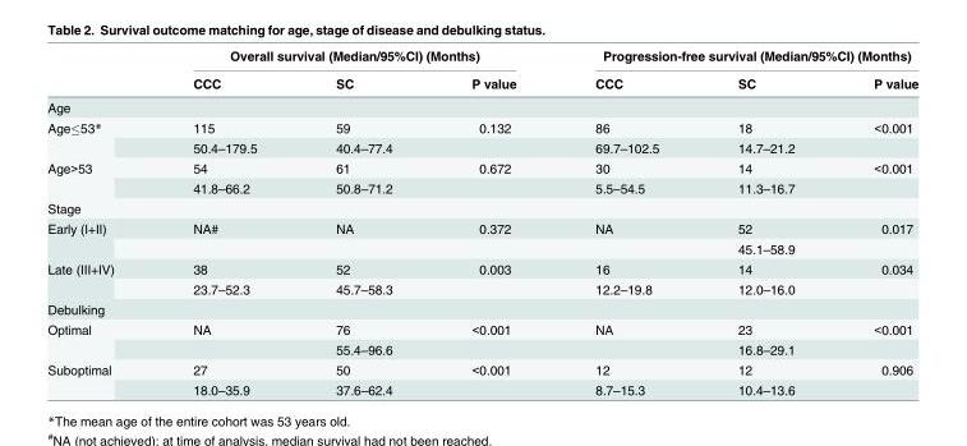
<table><thead><tr><td rowspan="2"></td><td colspan="3">Overall survival (Median/95%CI) (Months)</td><td colspan="3">Progression-free survival (Median/95%CI) (Months)</td></tr><tr><td>CCC</td><td>SC</td><td>P value</td><td>CCC</td><td>SC</td><td>P value</td></tr></thead><tbody><tr><td colspan="7">Age</td></tr><tr><td rowspan="2">Age≤53*</td><td>115</td><td>59</td><td>0.132</td><td>86</td><td>18</td><td>&lt;0.001</td></tr><tr><td>50.4–179.5</td><td>40.4–77.4</td><td></td><td>69.7–102.5</td><td>14.7–21.2</td><td></td></tr><tr><td rowspan="2">Age&gt;53</td><td>54</td><td>61</td><td>0.672</td><td>30</td><td>14</td><td>&lt;0.001</td></tr><tr><td>41.8–66.2</td><td>50.8–71.2</td><td></td><td>5.5–54.5</td><td>11.3–16.7</td><td></td></tr><tr><td colspan="7">Stage</td></tr><tr><td rowspan="2">Early (I+II)</td><td>NA#</td><td>NA</td><td>0.372</td><td>NA</td><td>52</td><td>0.017</td></tr><tr><td></td><td></td><td></td><td></td><td>45.1–58.9</td><td></td></tr><tr><td rowspan="2">Late (III+IV)</td><td>38</td><td>52</td><td>0.003</td><td>16</td><td>14</td><td>0.034</td></tr><tr><td>23.7–52.3</td><td>45.7–58.3</td><td></td><td>12.2–19.8</td><td>12.0–16.0</td><td></td></tr><tr><td colspan="7">Debulking</td></tr><tr><td rowspan="2">Optimal</td><td>NA</td><td>76</td><td>&lt;0.001</td><td>NA</td><td>23</td><td>&lt;0.001</td></tr><tr><td></td><td>55.4–96.6</td><td></td><td></td><td>16.8–29.1</td><td></td></tr><tr><td rowspan="2">Suboptimal</td><td>27</td><td>50</td><td>&lt;0.001</td><td>12</td><td>12</td><td>0.906</td></tr><tr><td>18.0–35.9</td><td>37.6–62.4</td><td></td><td>8.7–15.3</td><td>10.4–13.6</td><td></td></tr></tbody></table>